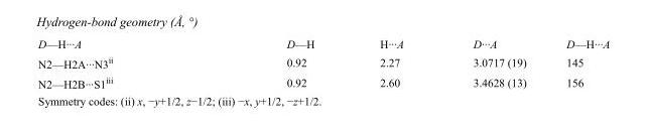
<table><tbody><tr><td>D—H···A</td><td>D—H</td><td>H···A</td><td>D···A</td><td>D—H···A</td></tr><tr><td>N2—H2A···N3<sup>ii</sup></td><td>0.92</td><td>2.27</td><td>3.0717 (19)</td><td>145</td></tr><tr><td>N2—H2B···S1<sup>iii</sup></td><td>0.92</td><td>2.60</td><td>3.4628 (13)</td><td>156</td></tr></tbody></table>